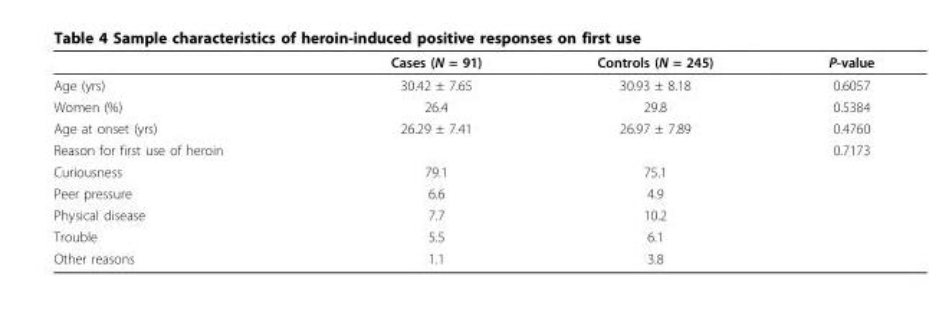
<table><thead><tr><td></td><td>Cases (N = 91)</td><td>Controls (N = 245)</td><td>P-value</td></tr></thead><tbody><tr><td>Age (yrs)</td><td>30.42 ± 7.65</td><td>30.93 ± 8.18</td><td>0.6057</td></tr><tr><td>Women (%)</td><td>26.4</td><td>29.8</td><td>0.5384</td></tr><tr><td>Age at onset (yrs)</td><td>26.29 ± 7.41</td><td>26.97 ± 7.89</td><td>0.4760</td></tr><tr><td>Reason for first use of heroin</td><td></td><td></td><td>0.7173</td></tr><tr><td>Curiousness</td><td>79.1</td><td>75.1</td><td></td></tr><tr><td>Peer pressure</td><td>6.6</td><td>4.9</td><td></td></tr><tr><td>Physical disease</td><td>7.7</td><td>10.2</td><td></td></tr><tr><td>Trouble</td><td>5.5</td><td>6.1</td><td></td></tr><tr><td>Other reasons</td><td>1.1</td><td>3.8</td><td></td></tr></tbody></table>